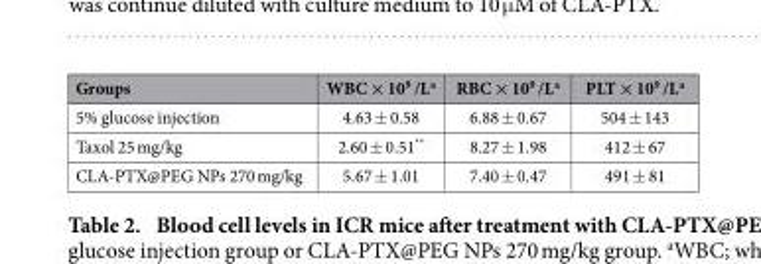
<table><thead><tr><td>Groups</td><td>WBC × 10<sup>9</sup> /L<sup>a</sup></td><td>RBC × 10<sup>9</sup> /L<sup>a</sup></td><td>PLT × 10<sup>9</sup> /L<sup>a</sup></td></tr></thead><tbody><tr><td>5% glucose injection</td><td>4.63 ± 0.58</td><td>6.88 ± 0.67</td><td>504 ± 143</td></tr><tr><td>Taxol 25 mg/kg</td><td>2.60 ± 0.51**</td><td>8.27 ± 1.98</td><td>412 ± 67</td></tr><tr><td>CLA-PTX@PEG NPs 270 mg/kg</td><td>5.67 ± 1.01</td><td>7.40 ± 0.47</td><td>491 ± 81</td></tr></tbody></table>